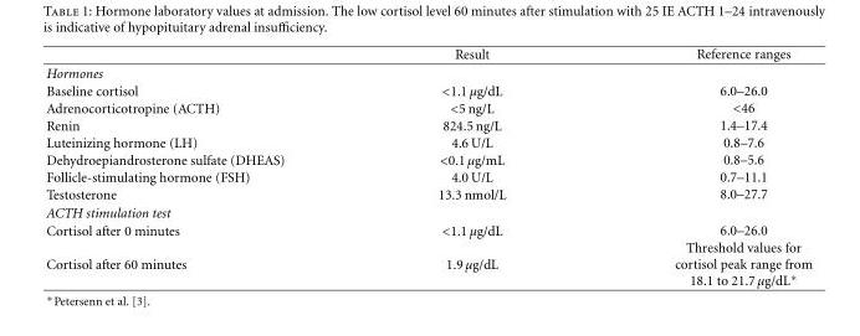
<table><thead><tr><td></td><td>Result</td><td>Reference ranges</td></tr></thead><tbody><tr><td colspan="3">Hormones</td></tr><tr><td>Baseline cortisol</td><td>&lt;1.1 µg/dL</td><td>6.0–26.0</td></tr><tr><td>Adrenocorticotropine (ACTH)</td><td>&lt;5 ng/L</td><td>&lt;46</td></tr><tr><td>Renin</td><td>824.5 ng/L</td><td>1.4–17.4</td></tr><tr><td>Luteinizing hormone (LH)</td><td>4.6 U/L</td><td>0.8–7.6</td></tr><tr><td>Dehydroepiandrosterone sulfate (DHEAS)</td><td>&lt;0.1 µg/mL</td><td>0.8–5.6</td></tr><tr><td>Follicle-stimulating hormone (FSH)</td><td>4.0 U/L</td><td>0.7–11.1</td></tr><tr><td>Testosterone</td><td>13.3 nmol/L</td><td>8.0–27.7</td></tr><tr><td colspan="3">ACTH stimulation test</td></tr><tr><td>Cortisol after 0 minutes</td><td>&lt;1.1 µg/dL</td><td>6.0–26.0</td></tr><tr><td>Cortisol after 60 minutes</td><td>1.9 µg/dL</td><td>Threshold values for cortisol peak range from 18.1 to 21.7 µg/dL∗</td></tr></tbody></table>